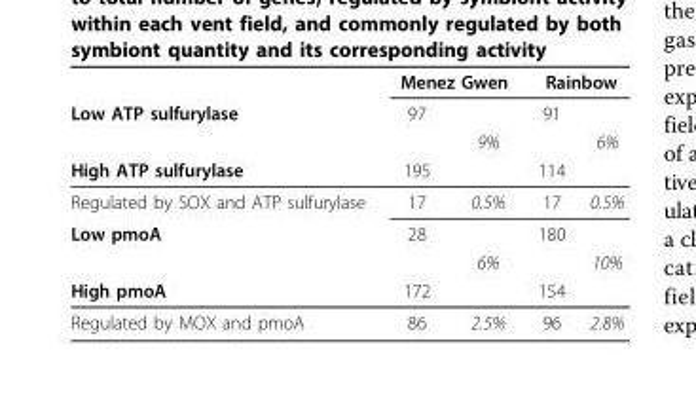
<table><thead><tr><td rowspan="4">Low ATP sulfurylase High ATP sulfurylase</td><td colspan="2">Menez Gwen</td><td colspan="2">Rainbow</td></tr><tr><td rowspan="3">97 195</td><td rowspan="3">9%</td><td rowspan="3">91 114</td><td rowspan="3">6%</td></tr><tr></tr><tr></tr></thead><tbody><tr><td>Regulated by SOX and ATP sulfurylase</td><td>17</td><td>0.5%</td><td>17</td><td>0.5%</td></tr><tr><td rowspan="2">Low pmoA</td><td>28</td><td></td><td>180</td><td></td></tr><tr><td></td><td>6%</td><td></td><td>10%</td></tr><tr><td>High pmoA</td><td>172</td><td></td><td>154</td><td></td></tr><tr><td>Regulated by MOX and pmoA</td><td>86</td><td>2.5%</td><td>96</td><td>2.8%</td></tr></tbody></table>